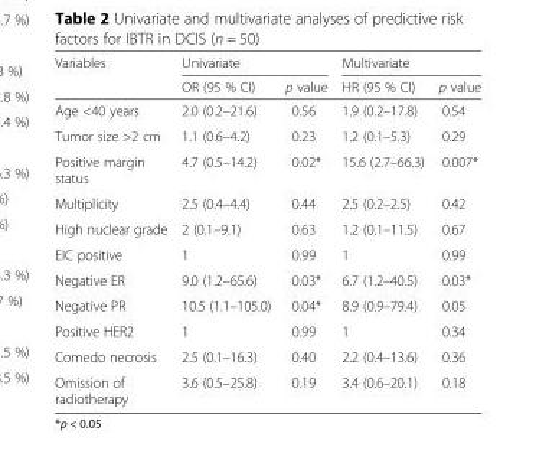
<table><thead><tr><td rowspan="2">Variables</td><td colspan="2">Univariate</td><td colspan="2">Multivariate</td></tr><tr><td>OR (95 % CI)</td><td>p value</td><td>HR (95 % CI)</td><td>p value</td></tr></thead><tbody><tr><td>Age &lt;40 years</td><td>2.0 (0.2–21.6)</td><td>0.56</td><td>1.9 (0.2–17.8)</td><td>0.54</td></tr><tr><td>Tumor size &gt;2 cm</td><td>1.1 (0.6–4.2)</td><td>0.23</td><td>1.2 (0.1–5.3)</td><td>0.29</td></tr><tr><td>Positive margin status</td><td>4.7 (0.5–14.2)</td><td>0.02*</td><td>15.6 (2.7–66.3)</td><td>0.007*</td></tr><tr><td>Multiplicity</td><td>2.5 (0.4–4.4)</td><td>0.44</td><td>2.5 (0.2–2.5)</td><td>0.42</td></tr><tr><td>High nuclear grade</td><td>2 (0.1–9.1)</td><td>0.63</td><td>1.2 (0.1–11.5)</td><td>0.67</td></tr><tr><td>EIC positive</td><td>1</td><td>0.99</td><td>1</td><td>0.99</td></tr><tr><td>Negative ER</td><td>9.0 (1.2–65.6)</td><td>0.03*</td><td>6.7 (1.2–40.5)</td><td>0.03*</td></tr><tr><td>Negative PR</td><td>10.5 (1.1–105.0)</td><td>0.04*</td><td>8.9 (0.9–79.4)</td><td>0.05</td></tr><tr><td>Positive HER2</td><td>1</td><td>0.99</td><td>1</td><td>0.34</td></tr><tr><td>Comedo necrosis</td><td>2.5 (0.1–16.3)</td><td>0.40</td><td>2.2 (0.4–13.6)</td><td>0.36</td></tr><tr><td>Omission of radiotherapy</td><td>3.6 (0.5–25.8)</td><td>0.19</td><td>3.4 (0.6–20.1)</td><td>0.18</td></tr></tbody></table>